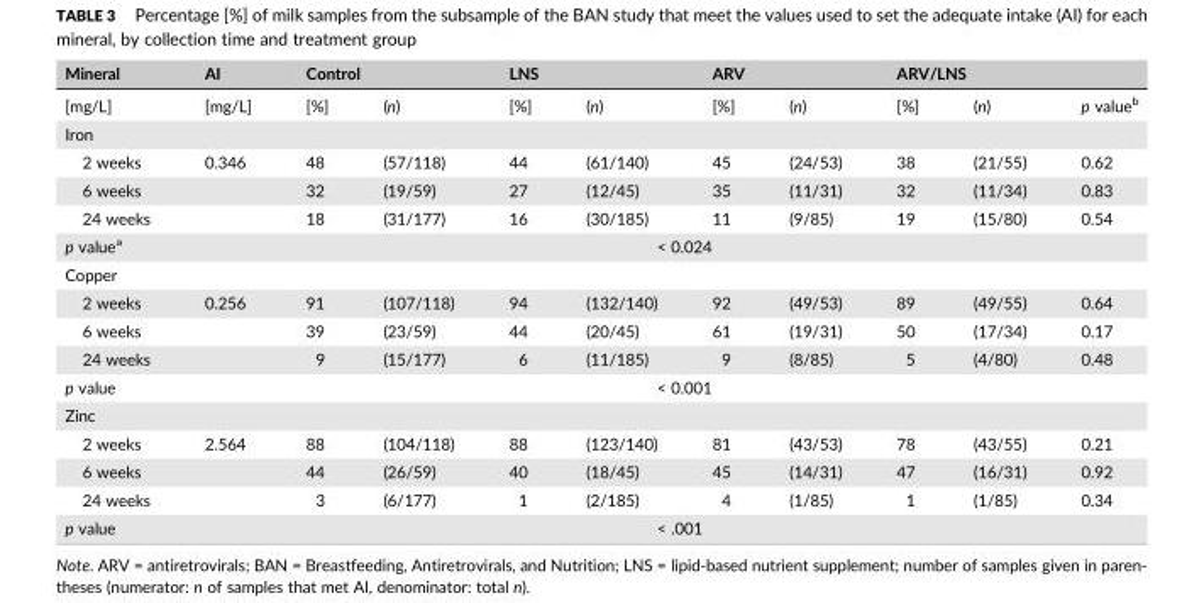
<table><thead><tr><td rowspan="2">Mineral [mg/L]</td><td rowspan="2">AI [mg/L]</td><td colspan="2">Control</td><td colspan="2">LNS</td><td colspan="2">ARV</td><td colspan="2">ARV/LNS</td><td rowspan="2">p value<sup>b</sup></td></tr><tr><td>[%]</td><td>(n)</td><td>[%]</td><td>(n)</td><td>[%]</td><td>(n)</td><td>[%]</td><td>(n)</td></tr></thead><tbody><tr><td colspan="11">Iron</td></tr><tr><td>2 weeks</td><td>0.346</td><td>48</td><td>(57/118)</td><td>44</td><td>(61/140)</td><td>45</td><td>(24/53)</td><td>38</td><td>(21/55)</td><td>0.62</td></tr><tr><td>6 weeks</td><td></td><td>32</td><td>(19/59)</td><td>27</td><td>(12/45)</td><td>35</td><td>(11/31)</td><td>32</td><td>(11/34)</td><td>0.83</td></tr><tr><td>24 weeks</td><td></td><td>18</td><td>(31/177)</td><td>16</td><td>(30/185)</td><td>11</td><td>(9/85)</td><td>19</td><td>(15/80)</td><td>0.54</td></tr><tr><td>p value<sup>a</sup></td><td></td><td colspan="8">&lt; 0.024</td><td></td></tr><tr><td colspan="11">Copper</td></tr><tr><td>2 weeks</td><td>0.256</td><td>91</td><td>(107/118)</td><td>94</td><td>(132/140)</td><td>92</td><td>(49/53)</td><td>89</td><td>(49/55)</td><td>0.64</td></tr><tr><td>6 weeks</td><td></td><td>39</td><td>(23/59)</td><td>44</td><td>(20/45)</td><td>61</td><td>(19/31)</td><td>50</td><td>(17/34)</td><td>0.17</td></tr><tr><td>24 weeks</td><td></td><td>9</td><td>(15/177)</td><td>6</td><td>(11/185)</td><td>9</td><td>(8/85)</td><td>5</td><td>(4/80)</td><td>0.48</td></tr><tr><td>p value</td><td></td><td colspan="8">&lt; 0.001</td><td></td></tr><tr><td colspan="11">Zinc</td></tr><tr><td>2 weeks</td><td>2.564</td><td>88</td><td>(104/118)</td><td>88</td><td>(123/140)</td><td>81</td><td>(43/53)</td><td>78</td><td>(43/55)</td><td>0.21</td></tr><tr><td>6 weeks</td><td></td><td>44</td><td>(26/59)</td><td>40</td><td>(18/45)</td><td>45</td><td>(14/31)</td><td>47</td><td>(16/31)</td><td>0.92</td></tr><tr><td>24 weeks</td><td></td><td>3</td><td>(6/177)</td><td>1</td><td>(2/185)</td><td>4</td><td>(1/85)</td><td>1</td><td>(1/85)</td><td>0.34</td></tr><tr><td>p value</td><td></td><td colspan="8">&lt; .001</td><td></td></tr></tbody></table>